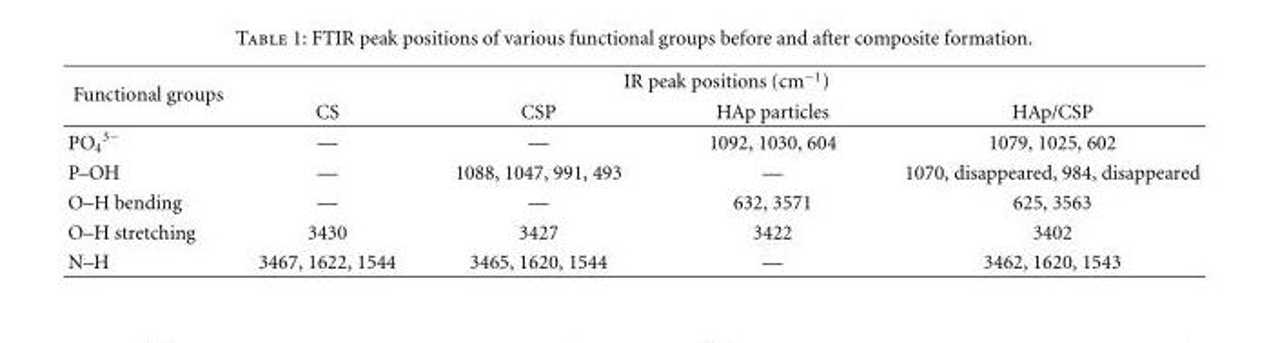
<table><thead><tr><td rowspan="2">Functional groups</td><td colspan="4">IR peak positions (cm<sup>−1</sup>)</td></tr><tr><td>CS</td><td>CSP</td><td>HAp particles</td><td>HAp/CSP</td></tr></thead><tbody><tr><td>PO<sub>4</sub> <sup>3−</sup></td><td>—</td><td>—</td><td>1092, 1030, 604</td><td>1079, 1025, 602</td></tr><tr><td>P–OH</td><td>—</td><td>1088, 1047, 991, 493</td><td>—</td><td>1070, disappeared, 984, disappeared</td></tr><tr><td>O–H bending</td><td>—</td><td>—</td><td>632, 3571</td><td>625, 3563</td></tr><tr><td>O–H stretching</td><td>3430</td><td>3427</td><td>3422</td><td>3402</td></tr><tr><td>N–H</td><td>3467, 1622, 1544</td><td>3465, 1620, 1544</td><td>—</td><td>3462, 1620, 1543</td></tr></tbody></table>